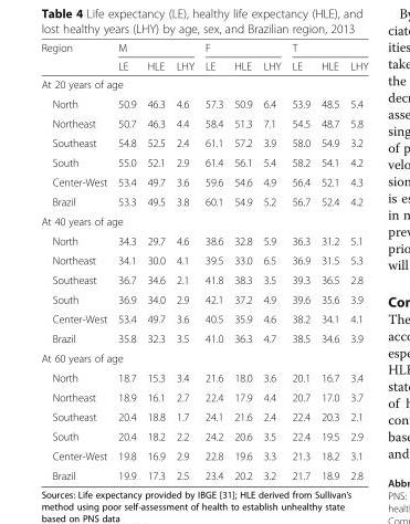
<table><thead><tr><td rowspan="2">Region</td><td colspan="3">M</td><td colspan="3">F</td><td colspan="3">T</td></tr><tr><td>LE</td><td>HLE</td><td>LHY</td><td>LE</td><td>HLE</td><td>LHY</td><td>LE</td><td>HLE</td><td>LHY</td></tr></thead><tbody><tr><td colspan="10">At 20 years of age</td></tr><tr><td>North</td><td>50.9</td><td>46.3</td><td>4.6</td><td>57.3</td><td>50.9</td><td>6.4</td><td>53.9</td><td>48.5</td><td>5.4</td></tr><tr><td>Northeast</td><td>50.7</td><td>46.3</td><td>4.4</td><td>58.4</td><td>51.3</td><td>7.1</td><td>54.5</td><td>48.7</td><td>5.8</td></tr><tr><td>Southeast</td><td>54.8</td><td>52.5</td><td>2.4</td><td>61.1</td><td>57.2</td><td>3.9</td><td>58.0</td><td>54.9</td><td>3.2</td></tr><tr><td>South</td><td>55.0</td><td>52.1</td><td>2.9</td><td>61.4</td><td>56.1</td><td>5.4</td><td>58.2</td><td>54.1</td><td>4.2</td></tr><tr><td>Center-West</td><td>53.4</td><td>49.7</td><td>3.6</td><td>59.6</td><td>54.6</td><td>4.9</td><td>56.4</td><td>52.1</td><td>4.3</td></tr><tr><td>Brazil</td><td>53.3</td><td>49.5</td><td>3.8</td><td>60.1</td><td>54.9</td><td>5.2</td><td>56.7</td><td>52.4</td><td>4.2</td></tr><tr><td colspan="10">At 40 years of age</td></tr><tr><td>North</td><td>34.3</td><td>29.7</td><td>4.6</td><td>38.6</td><td>32.8</td><td>5.9</td><td>36.3</td><td>31.2</td><td>5.1</td></tr><tr><td>Northeast</td><td>34.1</td><td>30.0</td><td>4.1</td><td>39.5</td><td>33.0</td><td>6.5</td><td>36.9</td><td>31.5</td><td>5.3</td></tr><tr><td>Southeast</td><td>36.7</td><td>34.6</td><td>2.1</td><td>41.8</td><td>38.3</td><td>3.5</td><td>39.3</td><td>36.5</td><td>2.8</td></tr><tr><td>South</td><td>36.9</td><td>34.0</td><td>2.9</td><td>42.1</td><td>37.2</td><td>4.9</td><td>39.6</td><td>35.6</td><td>3.9</td></tr><tr><td>Center-West</td><td>53.4</td><td>49.7</td><td>3.6</td><td>40.5</td><td>35.9</td><td>4.6</td><td>38.2</td><td>34.1</td><td>4.1</td></tr><tr><td>Brazil</td><td>35.8</td><td>32.3</td><td>3.5</td><td>41.0</td><td>36.3</td><td>4.7</td><td>38.5</td><td>34.6</td><td>3.9</td></tr><tr><td colspan="10">At 60 years of age</td></tr><tr><td>North</td><td>18.7</td><td>15.3</td><td>3.4</td><td>21.6</td><td>18.0</td><td>3.6</td><td>20.1</td><td>16.7</td><td>3.4</td></tr><tr><td>Northeast</td><td>18.9</td><td>16.1</td><td>2.7</td><td>22.4</td><td>17.9</td><td>4.4</td><td>20.7</td><td>17.0</td><td>3.7</td></tr><tr><td>Southeast</td><td>20.4</td><td>18.8</td><td>1.7</td><td>24.1</td><td>21.6</td><td>2.4</td><td>22.4</td><td>20.3</td><td>2.1</td></tr><tr><td>South</td><td>20.4</td><td>18.2</td><td>2.2</td><td>24.2</td><td>20.6</td><td>3.5</td><td>22.4</td><td>19.5</td><td>2.9</td></tr><tr><td>Center-West</td><td>19.8</td><td>16.9</td><td>2.9</td><td>22.8</td><td>19.6</td><td>3.3</td><td>21.3</td><td>18.2</td><td>3.1</td></tr><tr><td>Brazil</td><td>19.9</td><td>17.3</td><td>2.5</td><td>23.4</td><td>20.2</td><td>3.2</td><td>21.7</td><td>18.9</td><td>2.8</td></tr></tbody></table>